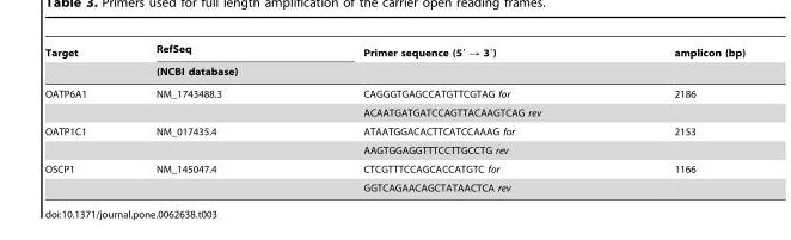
<table><thead><tr><td rowspan="2">Target</td><td rowspan="2">RefSeq (NCBI database)</td><td rowspan="2">Primer sequence (5′ → 3′)</td><td rowspan="2">amplicon (bp)</td></tr><tr></tr></thead><tbody><tr><td rowspan="2">OATP6A1</td><td>NM_1743488.3</td><td>CAGGGTGAGCCATGTTCGTAG for</td><td>2186</td></tr><tr><td></td><td>ACAATGATGATCCAGTTACAAGTCAG rev</td><td></td></tr><tr><td rowspan="2">OATP1C1</td><td>NM_017435.4</td><td>ATAATGGACACTTCATCCAAAG for</td><td>2153</td></tr><tr><td></td><td>AAGTGGAGGTTTCCTTGCCTG rev</td><td></td></tr><tr><td rowspan="2">OSCP1</td><td>NM_145047.4</td><td>CTCGTTTCCAGCACCATGTC for</td><td>1166</td></tr><tr><td></td><td>GGTCAGAACAGCTATAACTCA rev</td><td></td></tr></tbody></table>